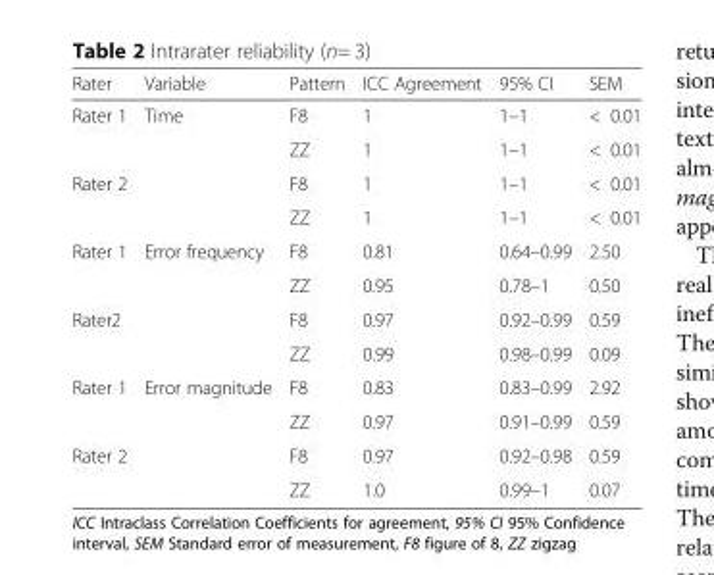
<table><thead><tr><td>Rater</td><td>Variable</td><td>Pattern</td><td>ICC Agreement</td><td>95% CI</td><td>SEM</td></tr></thead><tbody><tr><td rowspan="2">Rater 1</td><td rowspan="4">Time</td><td>F8</td><td>1</td><td>1–1</td><td>&lt; 0.01</td></tr><tr><td>ZZ</td><td>1</td><td>1–1</td><td>&lt; 0.01</td></tr><tr><td rowspan="2">Rater 2</td><td>F8</td><td>1</td><td>1–1</td><td>&lt; 0.01</td></tr><tr><td>ZZ</td><td>1</td><td>1–1</td><td>&lt; 0.01</td></tr><tr><td rowspan="2">Rater 1</td><td rowspan="4">Error frequency</td><td>F8</td><td>0.81</td><td>0.64–0.99</td><td>2.50</td></tr><tr><td>ZZ</td><td>0.95</td><td>0.78–1</td><td>0.50</td></tr><tr><td rowspan="2">Rater2</td><td>F8</td><td>0.97</td><td>0.92–0.99</td><td>0.59</td></tr><tr><td>ZZ</td><td>0.99</td><td>0.98–0.99</td><td>0.09</td></tr><tr><td rowspan="2">Rater 1</td><td rowspan="4">Error magnitude</td><td>F8</td><td>0.83</td><td>0.83–0.99</td><td>2.92</td></tr><tr><td>ZZ</td><td>0.97</td><td>0.91–0.99</td><td>0.59</td></tr><tr><td rowspan="2">Rater 2</td><td>F8</td><td>0.97</td><td>0.92–0.98</td><td>0.59</td></tr><tr><td>ZZ</td><td>1.0</td><td>0.99–1</td><td>0.07</td></tr></tbody></table>